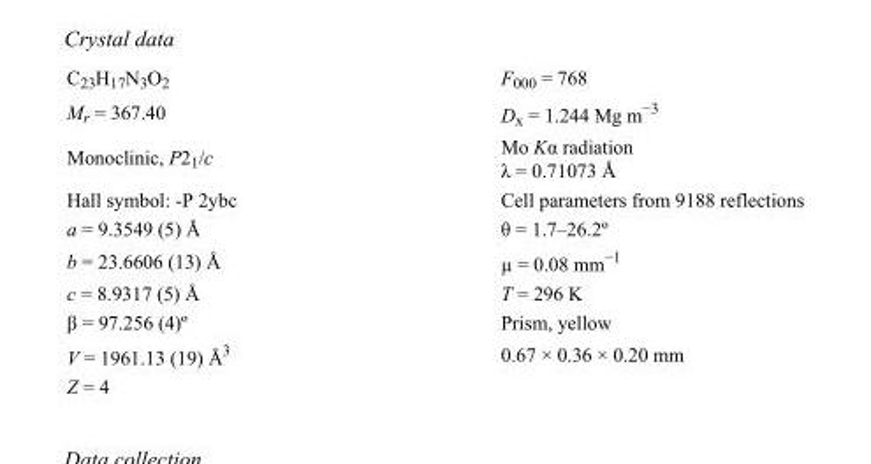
<table><tbody><tr><td>C<sub>23</sub>H<sub>17</sub>N<sub>3</sub>O<sub>2</sub></td><td>F000 = 768</td></tr><tr><td>M<sub>r</sub> = 367.40</td><td>D<sub>x</sub> = 1.244 Mg m<sup>−3</sup></td></tr><tr><td>Monoclinic, P2<sub>1</sub>/c</td><td>Mo Kα radiation λ = 0.71073 Å</td></tr><tr><td>Hall symbol: -P 2ybc</td><td>Cell parameters from 9188 reflections</td></tr><tr><td>a = 9.3549 (5) Å</td><td>θ = 1.7–26.2º</td></tr><tr><td>b = 23.6606 (13) Å</td><td>µ = 0.08 mm<sup>−1</sup></td></tr><tr><td>c = 8.9317 (5) Å</td><td>T = 296 K</td></tr><tr><td>β = 97.256 (4)º</td><td>Prism, yellow</td></tr><tr><td>V = 1961.13 (19) Å<sup>3</sup></td><td>0.67 × 0.36 × 0.20 mm</td></tr><tr><td>Z = 4</td><td></td></tr></tbody></table>